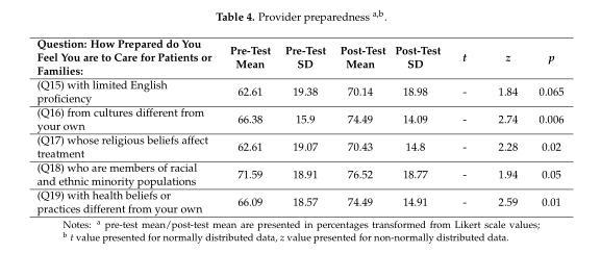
<table><thead><tr><td>Question: How Prepared do You Feel You are to Care for Patients or Families:</td><td>Pre-Test Mean</td><td>Pre-Test SD</td><td>Post-Test Mean</td><td>Post-Test SD</td><td>t</td><td>z</td><td>p</td></tr></thead><tbody><tr><td>(Q15) with limited English proficiency</td><td>62.61</td><td>19.38</td><td>70.14</td><td>18.98</td><td>-</td><td>1.84</td><td>0.065</td></tr><tr><td>(Q16) from cultures different from your own</td><td>66.38</td><td>15.9</td><td>74.49</td><td>14.09</td><td>-</td><td>2.74</td><td>0.006</td></tr><tr><td>(Q17) whose religious beliefs affect treatment</td><td>62.61</td><td>19.07</td><td>70.43</td><td>14.8</td><td>-</td><td>2.28</td><td>0.02</td></tr><tr><td>(Q18) who are members of racial and ethnic minority populations</td><td>71.59</td><td>18.91</td><td>76.52</td><td>18.77</td><td>-</td><td>1.94</td><td>0.05</td></tr><tr><td>(Q19) with health beliefs or practices different from your own</td><td>66.09</td><td>18.57</td><td>74.49</td><td>14.91</td><td>-</td><td>2.59</td><td>0.01</td></tr></tbody></table>